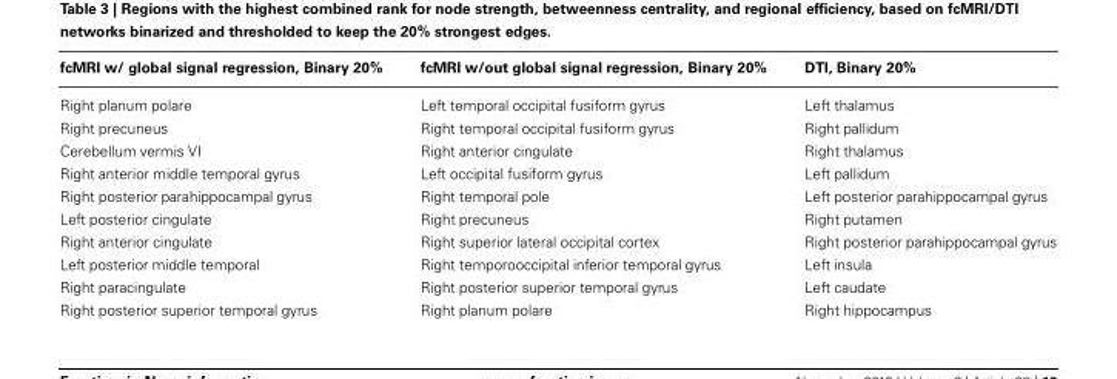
<table><thead><tr><td>fcMRI w/ global signal regression, Binary 20%</td><td>fcMRI w/out global signal regression, Binary 20%</td><td>DTI, Binary 20%</td></tr></thead><tbody><tr><td>Right planum polare</td><td>Left temporal occipital fusiform gyrus</td><td>Left thalamus</td></tr><tr><td>Right precuneus</td><td>Right temporal occipital fusiform gyrus</td><td>Right pallidum</td></tr><tr><td>Cerebellum vermis VI</td><td>Right anterior cingulate</td><td>Right thalamus</td></tr><tr><td>Right anterior middle temporal gyrus</td><td>Left occipital fusiform gyrus</td><td>Left pallidum</td></tr><tr><td>Right posterior parahippocampal gyrus</td><td>Right temporal pole</td><td>Left posterior parahippocampal gyrus</td></tr><tr><td>Left posterior cingulate</td><td>Right precuneus</td><td>Right putamen</td></tr><tr><td>Right anterior cingulate</td><td>Right superior lateral occipital cortex</td><td>Right posterior parahippocampal gyrus</td></tr><tr><td>Left posterior middle temporal</td><td>Right temporooccipital inferior temporal gyrus</td><td>Left insula</td></tr><tr><td>Right paracingulate</td><td>Right posterior superior temporal gyrus</td><td>Left caudate</td></tr><tr><td>Right posterior superior temporal gyrus</td><td>Right planum polare</td><td>Right hippocampus</td></tr></tbody></table>